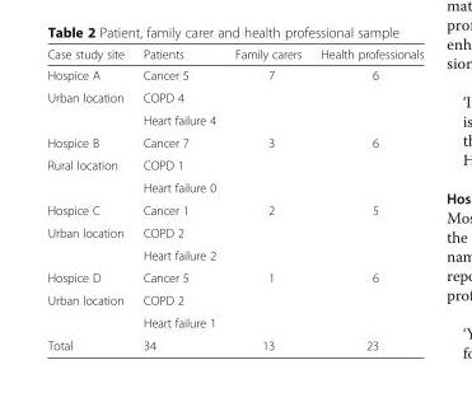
<table><thead><tr><td>Case study site</td><td>Patients</td><td>Family carers</td><td>Health professionals</td></tr></thead><tbody><tr><td>Hospice A</td><td>Cancer 5</td><td rowspan="3">7</td><td rowspan="3">6</td></tr><tr><td rowspan="2">Urban location</td><td>COPD 4</td></tr><tr><td>Heart failure 4</td></tr><tr><td>Hospice B</td><td>Cancer 7</td><td rowspan="3">3</td><td rowspan="3">6</td></tr><tr><td rowspan="2">Rural location</td><td>COPD 1</td></tr><tr><td>Heart failure 0</td></tr><tr><td>Hospice C</td><td>Cancer 1</td><td rowspan="3">2</td><td rowspan="3">5</td></tr><tr><td rowspan="2">Urban location</td><td>COPD 2</td></tr><tr><td>Heart failure 2</td></tr><tr><td>Hospice D</td><td>Cancer 5</td><td rowspan="3">1</td><td rowspan="3">6</td></tr><tr><td rowspan="2">Urban location</td><td>COPD 2</td></tr><tr><td>Heart failure 1</td></tr><tr><td>Total</td><td>34</td><td>13</td><td>23</td></tr></tbody></table>